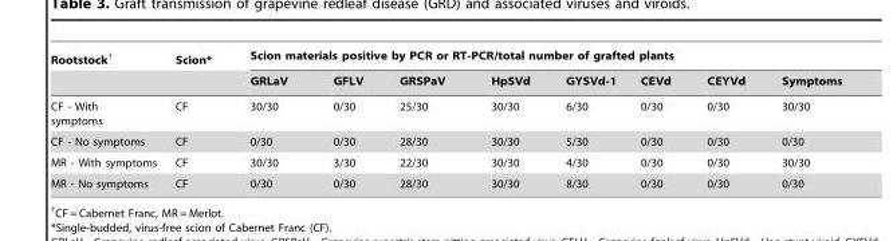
<table><thead><tr><td rowspan="2">Rootstock†</td><td rowspan="2">Scion*</td><td colspan="8">Scion materials positive by PCR or RT-PCR/total number of grafted plants</td></tr><tr><td>GRLaV</td><td>GFLV</td><td>GRSPaV</td><td>HpSVd</td><td>GYSVd-1</td><td>CEVd</td><td>CEYVd</td><td>Symptoms</td></tr></thead><tbody><tr><td>CF - With symptoms</td><td>CF</td><td>30/30</td><td>0/30</td><td>25/30</td><td>30/30</td><td>6/30</td><td>0/30</td><td>0/30</td><td>30/30</td></tr><tr><td>CF - No symptoms</td><td>CF</td><td>0/30</td><td>0/30</td><td>28/30</td><td>30/30</td><td>5/30</td><td>0/30</td><td>0/30</td><td>0/30</td></tr><tr><td>MR - With symptoms</td><td>CF</td><td>30/30</td><td>3/30</td><td>22/30</td><td>30/30</td><td>4/30</td><td>0/30</td><td>0/30</td><td>30/30</td></tr><tr><td>MR - No symptoms</td><td>CF</td><td>0/30</td><td>0/30</td><td>28/30</td><td>30/30</td><td>8/30</td><td>0/30</td><td>0/30</td><td>0/30</td></tr></tbody></table>